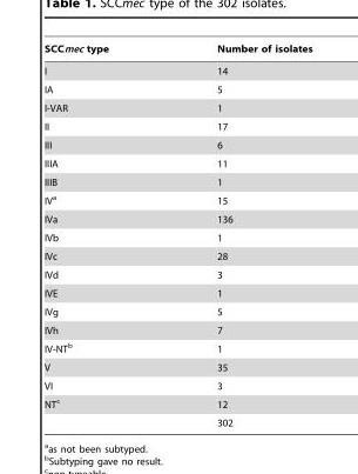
<table><thead><tr><td>SCCmec type</td><td>Number of isolates</td></tr></thead><tbody><tr><td>I</td><td>14</td></tr><tr><td>IA</td><td>5</td></tr><tr><td>I-VAR</td><td>1</td></tr><tr><td>II</td><td>17</td></tr><tr><td>III</td><td>6</td></tr><tr><td>IIIA</td><td>11</td></tr><tr><td>IIIB</td><td>1</td></tr><tr><td>IV<sup>a</sup></td><td>15</td></tr><tr><td>IVa</td><td>136</td></tr><tr><td>IVb</td><td>1</td></tr><tr><td>IVc</td><td>28</td></tr><tr><td>IVd</td><td>3</td></tr><tr><td>IVE</td><td>1</td></tr><tr><td>IVg</td><td>5</td></tr><tr><td>IVh</td><td>7</td></tr><tr><td>IV-NT<sup>b</sup></td><td>1</td></tr><tr><td>V</td><td>35</td></tr><tr><td>VI</td><td>3</td></tr><tr><td rowspan="2">NT<sup>c</sup></td><td>12</td></tr><tr><td>302</td></tr></tbody></table>